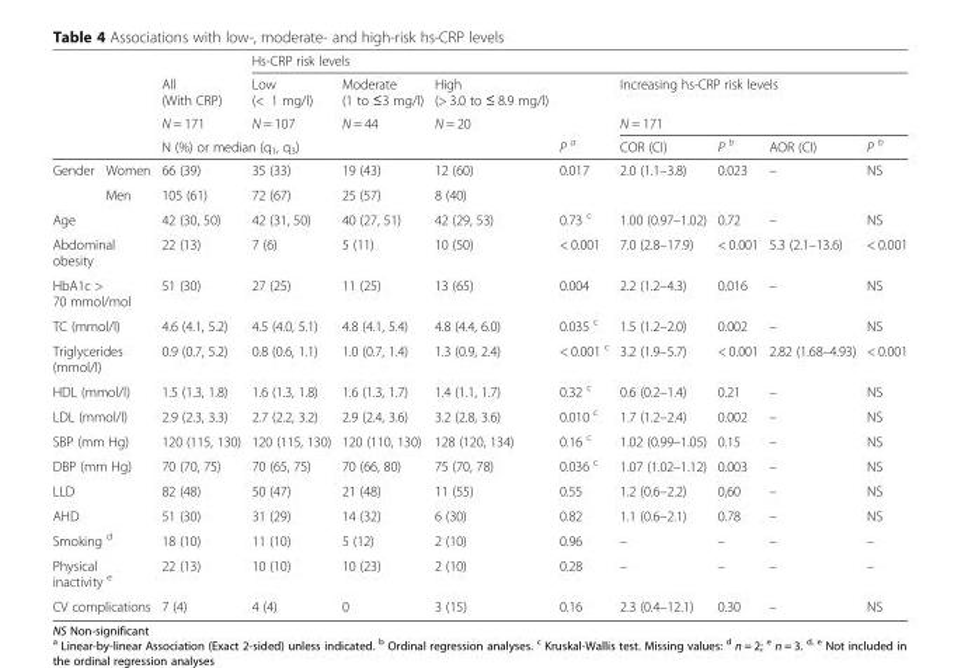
<table><thead><tr><td rowspan="4"></td><td rowspan="4"></td><td rowspan="3">All (With CRP) N = 171</td><td colspan="8">Hs-CRP risk levels</td></tr><tr><td rowspan="2">Low (&lt; 1 mg/l) N = 107</td><td rowspan="2">Moderate (1 to ≤3 mg/l) N = 44</td><td rowspan="2">High (&gt; 3.0 to ≤ 8.9 mg/l) N = 20</td><td rowspan="3">P <sup>a</sup></td><td rowspan="2" colspan="4">Increasing hs-CRP risk levels N = 171</td></tr><tr></tr><tr><td colspan="4">N (%) or median (q<sub>1</sub>, q<sub>3</sub>)</td><td>COR (CI)</td><td>P <sup>b</sup></td><td>AOR (CI)</td><td>P <sup>b</sup></td></tr></thead><tbody><tr><td rowspan="2">Gender</td><td>Women</td><td>66 (39)</td><td>35 (33)</td><td>19 (43)</td><td>12 (60)</td><td rowspan="2">0.017</td><td rowspan="2">2.0 (1.1–3.8)</td><td rowspan="2">0.023</td><td rowspan="2">–</td><td rowspan="2">NS</td></tr><tr><td>Men</td><td>105 (61)</td><td>72 (67)</td><td>25 (57)</td><td>8 (40)</td></tr><tr><td colspan="2">Age</td><td>42 (30, 50)</td><td>42 (31, 50)</td><td>40 (27, 51)</td><td>42 (29, 53)</td><td>0.73 <sup>c</sup></td><td>1.00 (0.97–1.02)</td><td>0.72</td><td>–</td><td>NS</td></tr><tr><td colspan="2">Abdominal obesity</td><td>22 (13)</td><td>7 (6)</td><td>5 (11)</td><td>10 (50)</td><td>&lt; 0.001</td><td>7.0 (2.8–17.9)</td><td>&lt; 0.001</td><td>5.3 (2.1–13.6)</td><td>&lt; 0.001</td></tr><tr><td colspan="2">HbA1c &gt; 70 mmol/mol</td><td>51 (30)</td><td>27 (25)</td><td>11 (25)</td><td>13 (65)</td><td>0.004</td><td>2.2 (1.2–4.3)</td><td>0.016</td><td>–</td><td>NS</td></tr><tr><td colspan="2">TC (mmol/l)</td><td>4.6 (4.1, 5.2)</td><td>4.5 (4.0, 5.1)</td><td>4.8 (4.1, 5.4)</td><td>4.8 (4.4, 6.0)</td><td>0.035 <sup>c</sup></td><td>1.5 (1.2–2.0)</td><td>0.002</td><td>–</td><td>NS</td></tr><tr><td colspan="2">Triglycerides (mmol/l)</td><td>0.9 (0.7, 5.2)</td><td>0.8 (0.6, 1.1)</td><td>1.0 (0.7, 1.4)</td><td>1.3 (0.9, 2.4)</td><td>&lt; 0.001 <sup>c</sup></td><td>3.2 (1.9–5.7)</td><td>&lt; 0.001</td><td>2.82 (1.68–4.93)</td><td>&lt; 0.001</td></tr><tr><td colspan="2">HDL (mmol/l)</td><td>1.5 (1.3, 1.8)</td><td>1.6 (1.3, 1.8)</td><td>1.6 (1.3, 1.7)</td><td>1.4 (1.1, 1.7)</td><td>0.32 <sup>c</sup></td><td>0.6 (0.2–1.4)</td><td>0.21</td><td>–</td><td>NS</td></tr><tr><td colspan="2">LDL (mmol/l)</td><td>2.9 (2.3, 3.3)</td><td>2.7 (2.2, 3.2)</td><td>2.9 (2.4, 3.6)</td><td>3.2 (2.8, 3.6)</td><td>0.010 <sup>c</sup></td><td>1.7 (1.2–2.4)</td><td>0.002</td><td>–</td><td>NS</td></tr><tr><td colspan="2">SBP (mm Hg)</td><td>120 (115, 130)</td><td>120 (115, 130)</td><td>120 (110, 130)</td><td>128 (120, 134)</td><td>0.16 <sup>c</sup></td><td>1.02 (0.99–1.05)</td><td>0.15</td><td>–</td><td>NS</td></tr><tr><td colspan="2">DBP (mm Hg)</td><td>70 (70, 75)</td><td>70 (65, 75)</td><td>70 (66, 80)</td><td>75 (70, 78)</td><td>0.036 <sup>c</sup></td><td>1.07 (1.02–1.12)</td><td>0.003</td><td>–</td><td>NS</td></tr><tr><td colspan="2">LLD</td><td>82 (48)</td><td>50 (47)</td><td>21 (48)</td><td>11 (55)</td><td>0.55</td><td>1.2 (0.6–2.2)</td><td>0,60</td><td>–</td><td>NS</td></tr><tr><td colspan="2">AHD</td><td>51 (30)</td><td>31 (29)</td><td>14 (32)</td><td>6 (30)</td><td>0.82</td><td>1.1 (0.6–2.1)</td><td>0.78</td><td>–</td><td>NS</td></tr><tr><td colspan="2">Smoking <sup>d</sup></td><td>18 (10)</td><td>11 (10)</td><td>5 (12)</td><td>2 (10)</td><td>0.96</td><td>–</td><td>–</td><td>–</td><td>–</td></tr><tr><td colspan="2">Physical inactivity <sup>e</sup></td><td>22 (13)</td><td>10 (10)</td><td>10 (23)</td><td>2 (10)</td><td>0.28</td><td>–</td><td>–</td><td>–</td><td>–</td></tr><tr><td colspan="2">CV complications</td><td>7 (4)</td><td>4 (4)</td><td>0</td><td>3 (15)</td><td>0.16</td><td>2.3 (0.4–12.1)</td><td>0.30</td><td>–</td><td>NS</td></tr></tbody></table>